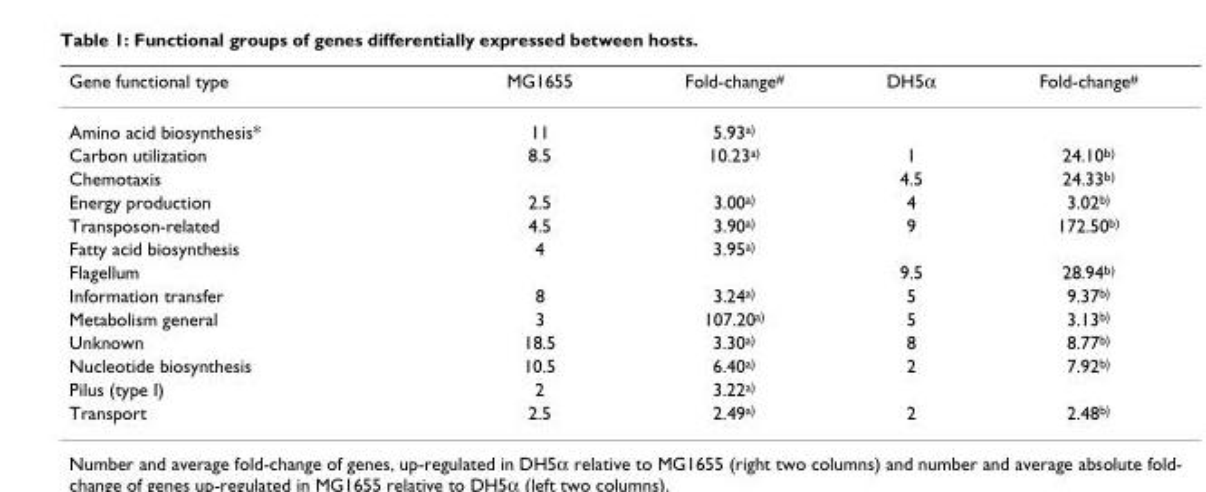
<table><thead><tr><td>Gene functional type</td><td>MG1655</td><td>Fold-change#</td><td>DH5α</td><td>Fold-change#</td></tr></thead><tbody><tr><td>Amino acid biosynthesis*</td><td>11</td><td>5.93a)</td><td></td><td></td></tr><tr><td>Carbon utilization</td><td>8.5</td><td>10.23a)</td><td>1</td><td>24.10b)</td></tr><tr><td>Chemotaxis</td><td></td><td></td><td>4.5</td><td>24.33b)</td></tr><tr><td>Energy production</td><td>2.5</td><td>3.00a)</td><td>4</td><td>3.02b)</td></tr><tr><td>Transposon-related</td><td>4.5</td><td>3.90a)</td><td>9</td><td>172.50b)</td></tr><tr><td>Fatty acid biosynthesis</td><td>4</td><td>3.95a)</td><td></td><td></td></tr><tr><td>Flagellum</td><td></td><td></td><td>9.5</td><td>28.94b)</td></tr><tr><td>Information transfer</td><td>8</td><td>3.24a)</td><td>5</td><td>9.37b)</td></tr><tr><td>Metabolism general</td><td>3</td><td>107.20a)</td><td>5</td><td>3.13b)</td></tr><tr><td>Unknown</td><td>18.5</td><td>3.30a)</td><td>8</td><td>8.77b)</td></tr><tr><td>Nucleotide biosynthesis</td><td>10.5</td><td>6.40a)</td><td>2</td><td>7.92b)</td></tr><tr><td>Pilus (type I)</td><td>2</td><td>3.22a)</td><td></td><td></td></tr><tr><td>Transport</td><td>2.5</td><td>2.49a)</td><td>2</td><td>2.48b)</td></tr></tbody></table>